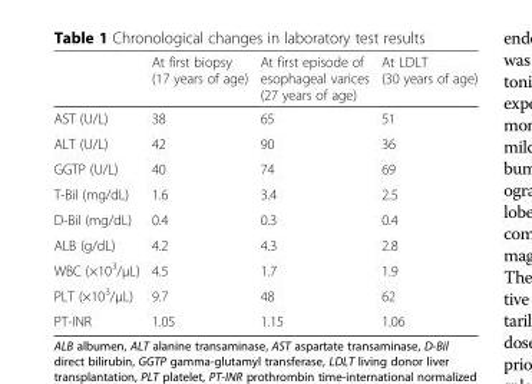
<table><thead><tr><td></td><td>At first biopsy (17 years of age)</td><td>At first episode of esophageal varices (27 years of age)</td><td>At LDLT (30 years of age)</td></tr></thead><tbody><tr><td>AST (U/L)</td><td>38</td><td>65</td><td>51</td></tr><tr><td>ALT (U/L)</td><td>42</td><td>90</td><td>36</td></tr><tr><td>GGTP (U/L)</td><td>40</td><td>74</td><td>69</td></tr><tr><td>T-Bil (mg/dL)</td><td>1.6</td><td>3.4</td><td>2.5</td></tr><tr><td>D-Bil (mg/dL)</td><td>0.4</td><td>0.3</td><td>0.4</td></tr><tr><td>ALB (g/dL)</td><td>4.2</td><td>4.3</td><td>2.8</td></tr><tr><td>WBC (×10<sup>3</sup>/μL)</td><td>4.5</td><td>1.7</td><td>1.9</td></tr><tr><td>PLT (×10<sup>3</sup>/μL)</td><td>9.7</td><td>48</td><td>62</td></tr><tr><td>PT-INR</td><td>1.05</td><td>1.15</td><td>1.06</td></tr></tbody></table>